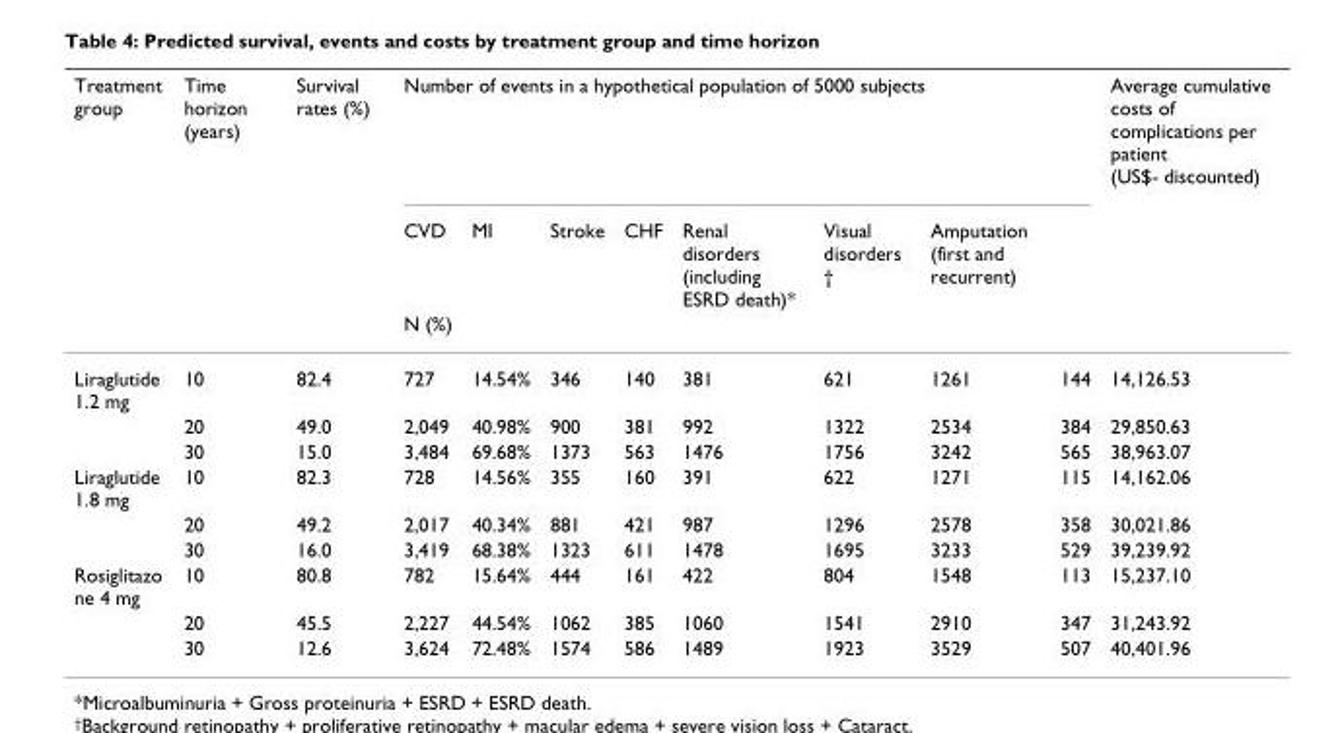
<table><thead><tr><td rowspan="3">Treatment group</td><td rowspan="3">Time horizon (years)</td><td rowspan="3">Survival rates (%)</td><td colspan="8">Number of events in a hypothetical population of 5000 subjects</td><td rowspan="3">Average cumulative costs of complications per patient (US$- discounted)</td></tr><tr><td rowspan="2">CVD N (%)</td><td rowspan="2">MI</td><td rowspan="2">Stroke</td><td rowspan="2">CHF</td><td rowspan="2">Renal disorders (including ESRD death)*</td><td rowspan="2">Visual disorders †</td><td rowspan="2">Amputation (first and recurrent)</td><td rowspan="2"></td></tr><tr></tr></thead><tbody><tr><td rowspan="3">Liraglutide 1.2 mg</td><td>10</td><td>82.4</td><td>727</td><td>14.54%</td><td>346</td><td>140</td><td>381</td><td>621</td><td>1261</td><td>144</td><td>14,126.53</td></tr><tr><td>20</td><td>49.0</td><td>2,049</td><td>40.98%</td><td>900</td><td>381</td><td>992</td><td>1322</td><td>2534</td><td>384</td><td>29,850.63</td></tr><tr><td>30</td><td>15.0</td><td>3,484</td><td>69.68%</td><td>1373</td><td>563</td><td>1476</td><td>1756</td><td>3242</td><td>565</td><td>38,963.07</td></tr><tr><td rowspan="3">Liraglutide 1.8 mg</td><td>10</td><td>82.3</td><td>728</td><td>14.56%</td><td>355</td><td>160</td><td>391</td><td>622</td><td>1271</td><td>115</td><td>14,162.06</td></tr><tr><td>20</td><td>49.2</td><td>2,017</td><td>40.34%</td><td>881</td><td>421</td><td>987</td><td>1296</td><td>2578</td><td>358</td><td>30,021.86</td></tr><tr><td>30</td><td>16.0</td><td>3,419</td><td>68.38%</td><td>1323</td><td>611</td><td>1478</td><td>1695</td><td>3233</td><td>529</td><td>39,239.92</td></tr><tr><td rowspan="3">Rosiglitazo ne 4 mg</td><td>10</td><td>80.8</td><td>782</td><td>15.64%</td><td>444</td><td>161</td><td>422</td><td>804</td><td>1548</td><td>113</td><td>15,237.10</td></tr><tr><td>20</td><td>45.5</td><td>2,227</td><td>44.54%</td><td>1062</td><td>385</td><td>1060</td><td>1541</td><td>2910</td><td>347</td><td>31,243.92</td></tr><tr><td>30</td><td>12.6</td><td>3,624</td><td>72.48%</td><td>1574</td><td>586</td><td>1489</td><td>1923</td><td>3529</td><td>507</td><td>40,401.96</td></tr></tbody></table>